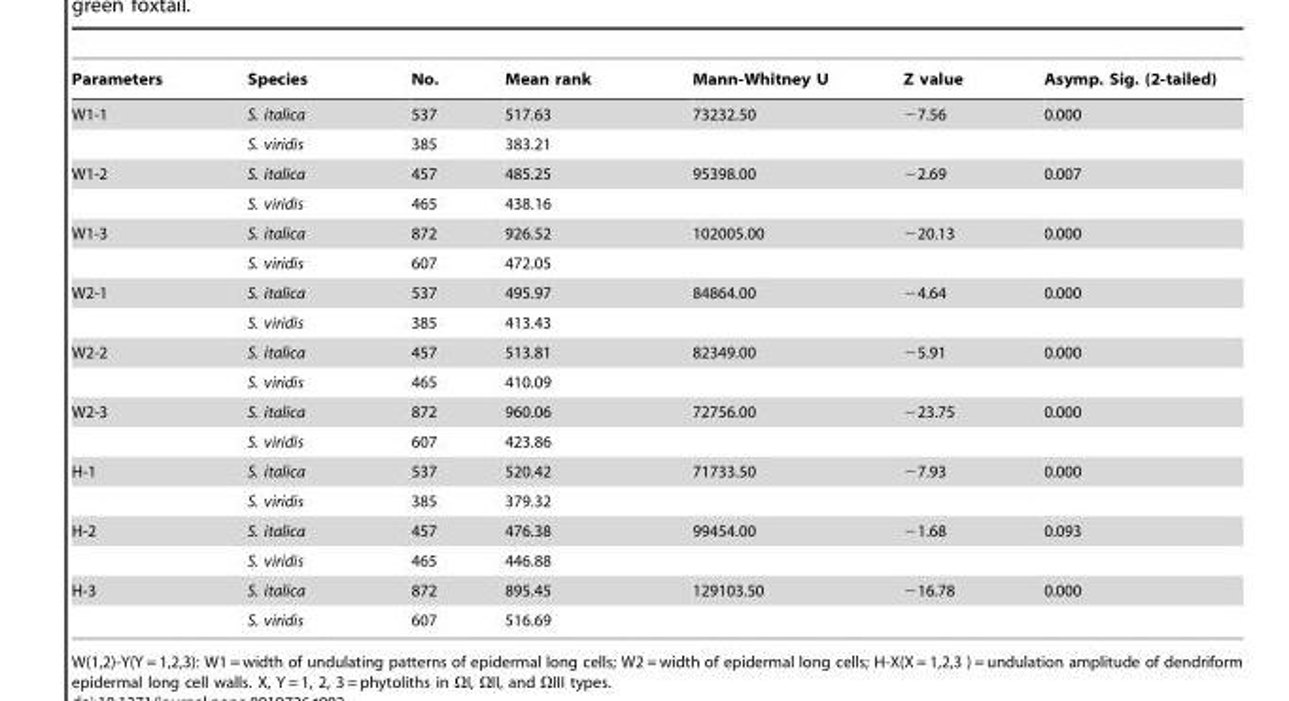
<table><thead><tr><td>Parameters</td><td>Species</td><td>No.</td><td>Mean rank</td><td>Mann-Whitney U</td><td>Z value</td><td>Asymp. Sig. (2-tailed)</td></tr></thead><tbody><tr><td rowspan="2">W1-1</td><td>S. italica</td><td>537</td><td>517.63</td><td>73232.50</td><td>−7.56</td><td>0.000</td></tr><tr><td>S. viridis</td><td>385</td><td>383.21</td><td></td><td></td><td></td></tr><tr><td rowspan="2">W1-2</td><td>S. italica</td><td>457</td><td>485.25</td><td>95398.00</td><td>−2.69</td><td>0.007</td></tr><tr><td>S. viridis</td><td>465</td><td>438.16</td><td></td><td></td><td></td></tr><tr><td rowspan="2">W1-3</td><td>S. italica</td><td>872</td><td>926.52</td><td>102005.00</td><td>−20.13</td><td>0.000</td></tr><tr><td>S. viridis</td><td>607</td><td>472.05</td><td></td><td></td><td></td></tr><tr><td rowspan="2">W2-1</td><td>S. italica</td><td>537</td><td>495.97</td><td>84864.00</td><td>−4.64</td><td>0.000</td></tr><tr><td>S. viridis</td><td>385</td><td>413.43</td><td></td><td></td><td></td></tr><tr><td rowspan="2">W2-2</td><td>S. italica</td><td>457</td><td>513.81</td><td>82349.00</td><td>−5.91</td><td>0.000</td></tr><tr><td>S. viridis</td><td>465</td><td>410.09</td><td></td><td></td><td></td></tr><tr><td rowspan="2">W2-3</td><td>S. italica</td><td>872</td><td>960.06</td><td>72756.00</td><td>−23.75</td><td>0.000</td></tr><tr><td>S. viridis</td><td>607</td><td>423.86</td><td></td><td></td><td></td></tr><tr><td rowspan="2">H-1</td><td>S. italica</td><td>537</td><td>520.42</td><td>71733.50</td><td>−7.93</td><td>0.000</td></tr><tr><td>S. viridis</td><td>385</td><td>379.32</td><td></td><td></td><td></td></tr><tr><td rowspan="2">H-2</td><td>S. italica</td><td>457</td><td>476.38</td><td>99454.00</td><td>−1.68</td><td>0.093</td></tr><tr><td>S. viridis</td><td>465</td><td>446.88</td><td></td><td></td><td></td></tr><tr><td rowspan="2">H-3</td><td>S. italica</td><td>872</td><td>895.45</td><td>129103.50</td><td>−16.78</td><td>0.000</td></tr><tr><td>S. viridis</td><td>607</td><td>516.69</td><td></td><td></td><td></td></tr></tbody></table>